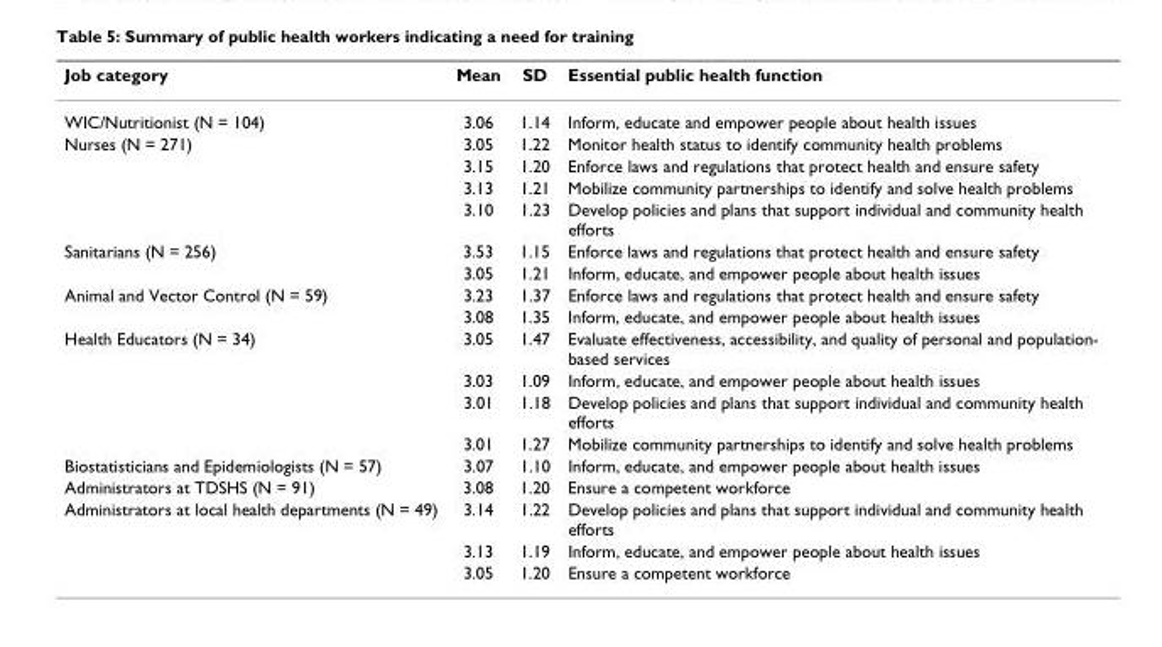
<table><thead><tr><td>Job category</td><td>Mean</td><td>SD</td><td>Essential public health function</td></tr></thead><tbody><tr><td>WIC/Nutritionist (N = 104)</td><td>3.06</td><td>1.14</td><td>Inform, educate and empower people about health issues</td></tr><tr><td rowspan="4">Nurses (N = 271)</td><td>3.05</td><td>1.22</td><td>Monitor health status to identify community health problems</td></tr><tr><td>3.15</td><td>1.20</td><td>Enforce laws and regulations that protect health and ensure safety</td></tr><tr><td>3.13</td><td>1.21</td><td>Mobilize community partnerships to identify and solve health problems</td></tr><tr><td>3.10</td><td>1.23</td><td>Develop policies and plans that support individual and community health efforts</td></tr><tr><td rowspan="2">Sanitarians (N = 256)</td><td>3.53</td><td>1.15</td><td>Enforce laws and regulations that protect health and ensure safety</td></tr><tr><td>3.05</td><td>1.21</td><td>Inform, educate, and empower people about health issues</td></tr><tr><td rowspan="2">Animal and Vector Control (N = 59)</td><td>3.23</td><td>1.37</td><td>Enforce laws and regulations that protect health and ensure safety</td></tr><tr><td>3.08</td><td>1.35</td><td>Inform, educate, and empower people about health issues</td></tr><tr><td rowspan="4">Health Educators (N = 34)</td><td>3.05</td><td>1.47</td><td>Evaluate effectiveness, accessibility, and quality of personal and population- based services</td></tr><tr><td>3.03</td><td>1.09</td><td>Inform, educate, and empower people about health issues</td></tr><tr><td>3.01</td><td>1.18</td><td>Develop policies and plans that support individual and community health efforts</td></tr><tr><td>3.01</td><td>1.27</td><td>Mobilize community partnerships to identify and solve health problems</td></tr><tr><td>Biostatisticians and Epidemiologists (N = 57)</td><td>3.07</td><td>1.10</td><td>Inform, educate, and empower people about health issues</td></tr><tr><td>Administrators at TDSHS (N = 91)</td><td>3.08</td><td>1.20</td><td>Ensure a competent workforce</td></tr><tr><td rowspan="3">Administrators at local health departments (N = 49)</td><td>3.14</td><td>1.22</td><td>Develop policies and plans that support individual and community health efforts</td></tr><tr><td>3.13</td><td>1.19</td><td>Inform, educate, and empower people about health issues</td></tr><tr><td>3.05</td><td>1.20</td><td>Ensure a competent workforce</td></tr></tbody></table>